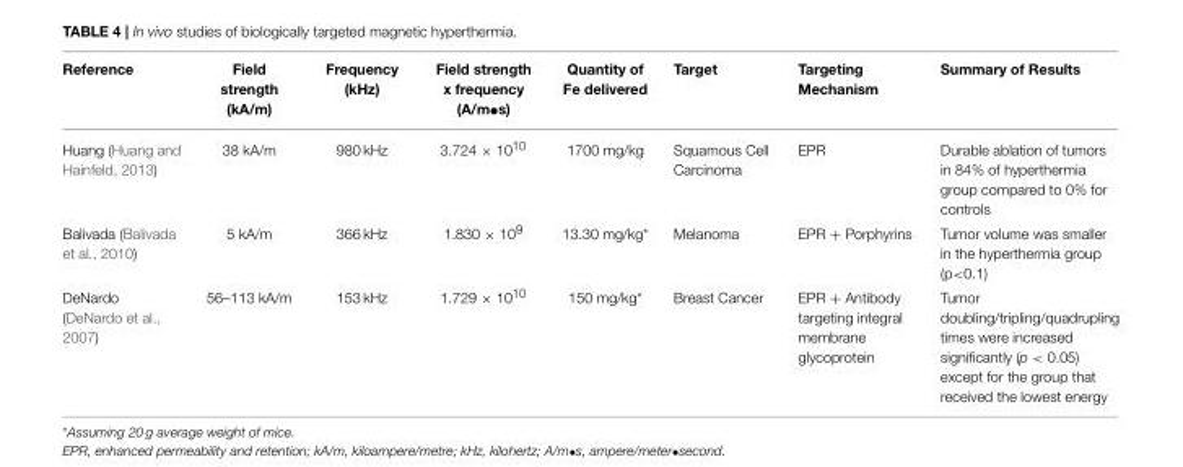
<table><thead><tr><td>Reference</td><td>Field strength (kA/m)</td><td>Frequency (kHz)</td><td>Field strength x frequency (A/m•s)</td><td>Quantity of Fe delivered</td><td>Target</td><td>Targeting Mechanism</td><td>Summary of Results</td></tr></thead><tbody><tr><td>Huang (Huang and Hainfeld, 2013)</td><td>38 kA/m</td><td>980 kHz</td><td>3.724 × 10<sup>10</sup></td><td>1700 mg/kg</td><td>Squamous Cell Carcinoma</td><td>EPR</td><td>Durable ablation of tumors in 84% of hyperthermia group compared to 0% for controls</td></tr><tr><td>Balivada (Balivada et al., 2010)</td><td>5 kA/m</td><td>366 kHz</td><td>1.830 × 10<sup>9</sup></td><td>13.30 mg/kg*</td><td>Melanoma</td><td>EPR + Porphyrins</td><td>Tumor volume was smaller in the hyperthermia group (p&lt;0.1)</td></tr><tr><td>DeNardo (DeNardo et al., 2007)</td><td>56–113 kA/m</td><td>153 kHz</td><td>1.729 × 10<sup>10</sup></td><td>150 mg/kg*</td><td>Breast Cancer</td><td>EPR + Antibody targeting integral membrane glycoprotein</td><td>Tumor doubling/tripling/quadrupling times were increased significantly (p &lt; 0.05) except for the group that received the lowest energy</td></tr></tbody></table>